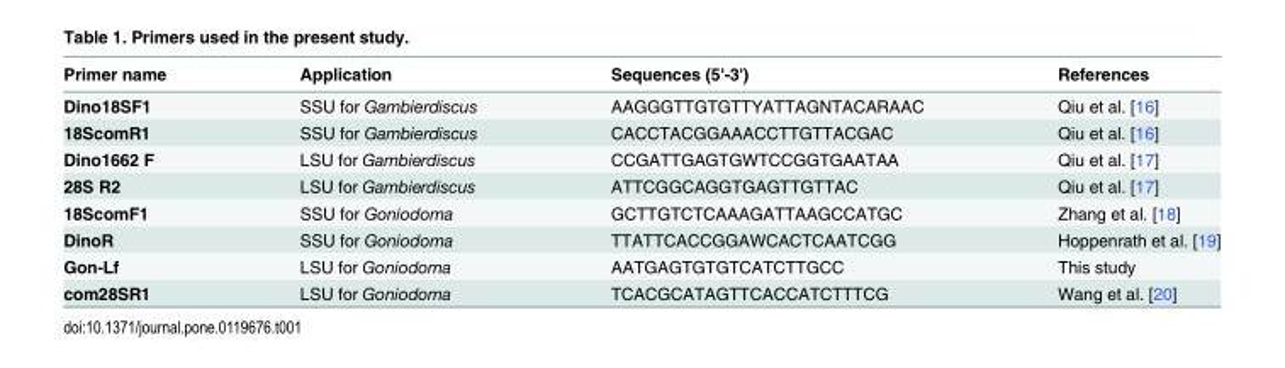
<table><thead><tr><td>Primer name</td><td>Application</td><td>Sequences (5&#x27;-3&#x27;)</td><td>References</td></tr></thead><tbody><tr><td>Dino18SF1</td><td>SSU for Gambierdiscus</td><td>AAGGGTTGTGTTYATTAGNTACARAAC</td><td>Qiu et al. [16]</td></tr><tr><td>18ScomR1</td><td>SSU for Gambierdiscus</td><td>CACCTACGGAAACCTTGTTACGAC</td><td>Qiu et al. [16]</td></tr><tr><td>Dino1662 F</td><td>LSU for Gambierdiscus</td><td>CCGATTGAGTGWTCCGGTGAATAA</td><td>Qiu et al. [17]</td></tr><tr><td>28S R2</td><td>LSU for Gambierdiscus</td><td>ATTCGGCAGGTGAGTTGTTAC</td><td>Qiu et al. [17]</td></tr><tr><td>18ScomF1</td><td>SSU for Goniodoma</td><td>GCTTGTCTCAAAGATTAAGCCATGC</td><td>Zhang et al. [18]</td></tr><tr><td>DinoR</td><td>SSU for Goniodoma</td><td>TTATTCACCGGAWCACTCAATCGG</td><td>Hoppenrath et al. [19]</td></tr><tr><td>Gon-Lf</td><td>LSU for Goniodoma</td><td>AATGAGTGTGTCATCTTGCC</td><td>This study</td></tr><tr><td>com28SR1</td><td>LSU for Goniodoma</td><td>TCACGCATAGTTCACCATCTTTCG</td><td>Wang et al. [20]</td></tr></tbody></table>